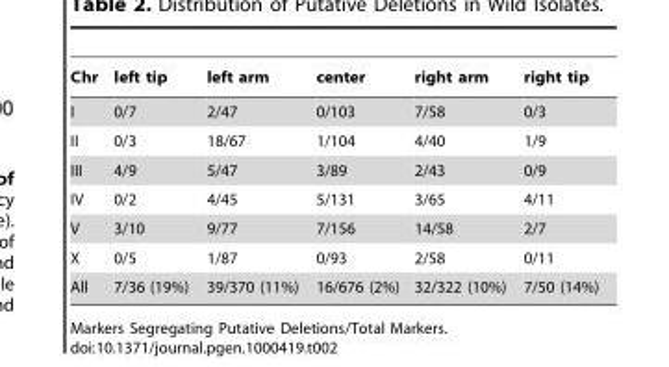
<table><thead><tr><td>Chr</td><td>left tip</td><td>left arm</td><td>center</td><td>right arm</td><td>right tip</td></tr></thead><tbody><tr><td>I</td><td>0/7</td><td>2/47</td><td>0/103</td><td>7/58</td><td>0/3</td></tr><tr><td>II</td><td>0/3</td><td>18/67</td><td>1/104</td><td>4/40</td><td>1/9</td></tr><tr><td>III</td><td>4/9</td><td>5/47</td><td>3/89</td><td>2/43</td><td>0/9</td></tr><tr><td>IV</td><td>0/2</td><td>4/45</td><td>5/131</td><td>3/65</td><td>4/11</td></tr><tr><td>V</td><td>3/10</td><td>9/77</td><td>7/156</td><td>14/58</td><td>2/7</td></tr><tr><td>X</td><td>0/5</td><td>1/87</td><td>0/93</td><td>2/58</td><td>0/11</td></tr><tr><td>All</td><td>7/36 (19%)</td><td>39/370 (11%)</td><td>16/676 (2%)</td><td>32/322 (10%)</td><td>7/50 (14%)</td></tr></tbody></table>